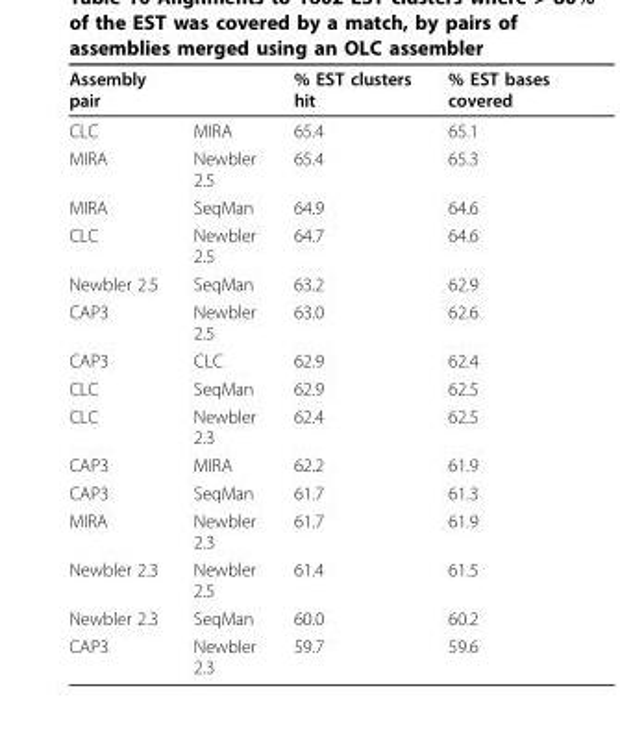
<table><thead><tr><td>Assembly pair</td><td></td><td>% EST clusters hit</td><td>% EST bases covered</td></tr></thead><tbody><tr><td>CLC</td><td>MIRA</td><td>65.4</td><td>65.1</td></tr><tr><td>MIRA</td><td>Newbler 2.5</td><td>65.4</td><td>65.3</td></tr><tr><td>MIRA</td><td>SeqMan</td><td>64.9</td><td>64.6</td></tr><tr><td>CLC</td><td>Newbler 2.5</td><td>64.7</td><td>64.6</td></tr><tr><td>Newbler 2.5</td><td>SeqMan</td><td>63.2</td><td>62.9</td></tr><tr><td>CAP3</td><td>Newbler 2.5</td><td>63.0</td><td>62.6</td></tr><tr><td>CAP3</td><td>CLC</td><td>62.9</td><td>62.4</td></tr><tr><td>CLC</td><td>SeqMan</td><td>62.9</td><td>62.5</td></tr><tr><td>CLC</td><td>Newbler 2.3</td><td>62.4</td><td>62.5</td></tr><tr><td>CAP3</td><td>MIRA</td><td>62.2</td><td>61.9</td></tr><tr><td>CAP3</td><td>SeqMan</td><td>61.7</td><td>61.3</td></tr><tr><td>MIRA</td><td>Newbler 2.3</td><td>61.7</td><td>61.9</td></tr><tr><td>Newbler 2.3</td><td>Newbler 2.5</td><td>61.4</td><td>61.5</td></tr><tr><td>Newbler 2.3</td><td>SeqMan</td><td>60.0</td><td>60.2</td></tr><tr><td>CAP3</td><td>Newbler 2.3</td><td>59.7</td><td>59.6</td></tr></tbody></table>